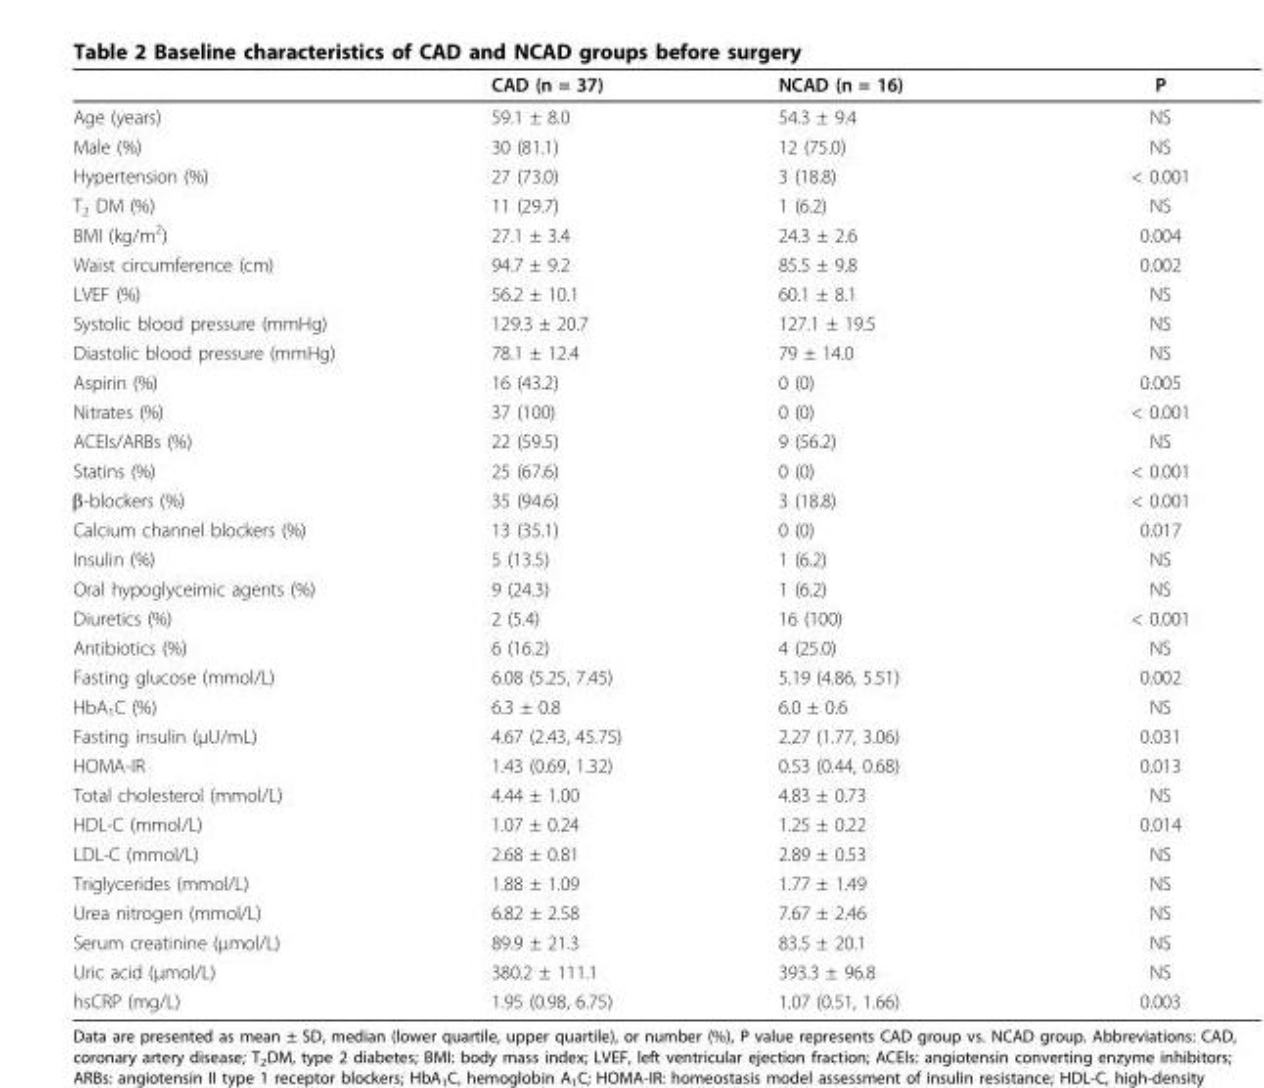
<table><thead><tr><td></td><td>CAD (n = 37)</td><td>NCAD (n = 16)</td><td>P</td></tr></thead><tbody><tr><td>Age (years)</td><td>59.1 ± 8.0</td><td>54.3 ± 9.4</td><td>NS</td></tr><tr><td>Male (%)</td><td>30 (81.1)</td><td>12 (75.0)</td><td>NS</td></tr><tr><td>Hypertension (%)</td><td>27 (73.0)</td><td>3 (18.8)</td><td>&lt; 0.001</td></tr><tr><td>T<sub>2</sub> DM (%)</td><td>11 (29.7)</td><td>1 (6.2)</td><td>NS</td></tr><tr><td>BMI (kg/m<sup>2</sup>)</td><td>27.1 ± 3.4</td><td>24.3 ± 2.6</td><td>0.004</td></tr><tr><td>Waist circumference (cm)</td><td>94.7 ± 9.2</td><td>85.5 ± 9.8</td><td>0.002</td></tr><tr><td>LVEF (%)</td><td>56.2 ± 10.1</td><td>60.1 ± 8.1</td><td>NS</td></tr><tr><td>Systolic blood pressure (mmHg)</td><td>129.3 ± 20.7</td><td>127.1 ± 19.5</td><td>NS</td></tr><tr><td>Diastolic blood pressure (mmHg)</td><td>78.1 ± 12.4</td><td>79 ± 14.0</td><td>NS</td></tr><tr><td>Aspirin (%)</td><td>16 (43.2)</td><td>0 (0)</td><td>0.005</td></tr><tr><td>Nitrates (%)</td><td>37 (100)</td><td>0 (0)</td><td>&lt; 0.001</td></tr><tr><td>ACEIs/ARBs (%)</td><td>22 (59.5)</td><td>9 (56.2)</td><td>NS</td></tr><tr><td>Statins (%)</td><td>25 (67.6)</td><td>0 (0)</td><td>&lt; 0.001</td></tr><tr><td>β-blockers (%)</td><td>35 (94.6)</td><td>3 (18.8)</td><td>&lt; 0.001</td></tr><tr><td>Calcium channel blockers (%)</td><td>13 (35.1)</td><td>0 (0)</td><td>0.017</td></tr><tr><td>Insulin (%)</td><td>5 (13.5)</td><td>1 (6.2)</td><td>NS</td></tr><tr><td>Oral hypoglyceimic agents (%)</td><td>9 (24.3)</td><td>1 (6.2)</td><td>NS</td></tr><tr><td>Diuretics (%)</td><td>2 (5.4)</td><td>16 (100)</td><td>&lt; 0.001</td></tr><tr><td>Antibiotics (%)</td><td>6 (16.2)</td><td>4 (25.0)</td><td>NS</td></tr><tr><td>Fasting glucose (mmol/L)</td><td>6.08 (5.25, 7.45)</td><td>5.19 (4.86, 5.51)</td><td>0.002</td></tr><tr><td>HbA<sub>1</sub>C (%)</td><td>6.3 ± 0.8</td><td>6.0 ± 0.6</td><td>NS</td></tr><tr><td>Fasting insulin (μU/mL)</td><td>4.67 (2.43, 45.75)</td><td>2.27 (1.77, 3.06)</td><td>0.031</td></tr><tr><td>HOMA-IR</td><td>1.43 (0.69, 1.32)</td><td>0.53 (0.44, 0.68)</td><td>0.013</td></tr><tr><td>Total cholesterol (mmol/L)</td><td>4.44 ± 1.00</td><td>4.83 ± 0.73</td><td>NS</td></tr><tr><td>HDL-C (mmol/L)</td><td>1.07 ± 0.24</td><td>1.25 ± 0.22</td><td>0.014</td></tr><tr><td>LDL-C (mmol/L)</td><td>2.68 ± 0.81</td><td>2.89 ± 0.53</td><td>NS</td></tr><tr><td>Triglycerides (mmol/L)</td><td>1.88 ± 1.09</td><td>1.77 ± 1.49</td><td>NS</td></tr><tr><td>Urea nitrogen (mmol/L)</td><td>6.82 ± 2.58</td><td>7.67 ± 2.46</td><td>NS</td></tr><tr><td>Serum creatinine (μmol/L)</td><td>89.9 ± 21.3</td><td>83.5 ± 20.1</td><td>NS</td></tr><tr><td>Uric acid (μmol/L)</td><td>380.2 ± 111.1</td><td>393.3 ± 96.8</td><td>NS</td></tr><tr><td>hsCRP (mg/L)</td><td>1.95 (0.98, 6.75)</td><td>1.07 (0.51, 1.66)</td><td>0.003</td></tr></tbody></table>